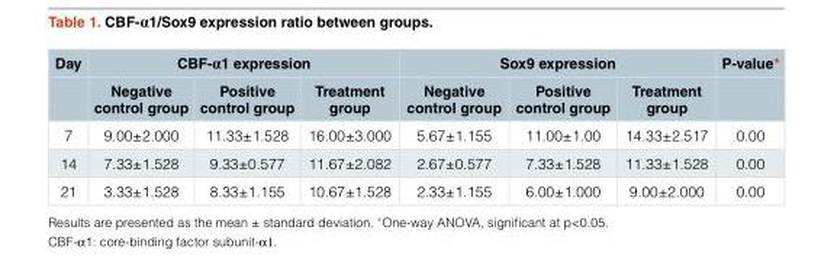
<table><thead><tr><td rowspan="2">Day</td><td colspan="3">CBF-α1 expression</td><td colspan="3">Sox9 expression</td><td rowspan="2">P-value*</td></tr><tr><td>Negative control group</td><td>Positive control group</td><td>Treatment group</td><td>Negative control group</td><td>Positive control group</td><td>Treatment group</td></tr></thead><tbody><tr><td>7</td><td>9.00±2.000</td><td>11.33±1.528</td><td>16.00±3.000</td><td>5.67±1.155</td><td>11.00±1.00</td><td>14.33±2.517</td><td>0.00</td></tr><tr><td>14</td><td>7.33±1.528</td><td>9.33±0.577</td><td>11.67±2.082</td><td>2.67±0.577</td><td>7.33±1.528</td><td>11.33±1.528</td><td>0.00</td></tr><tr><td>21</td><td>3.33±1.528</td><td>8.33±1.155</td><td>10.67±1.528</td><td>2.33±1.155</td><td>6.00±1.000</td><td>9.00±2.000</td><td>0.00</td></tr></tbody></table>